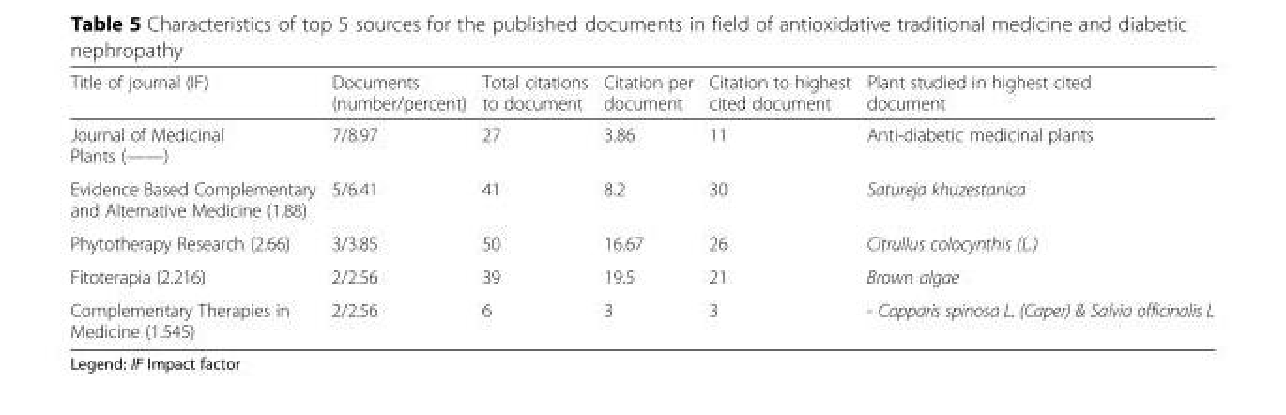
<table><thead><tr><td>Title of journal (IF)</td><td>Documents (number/percent)</td><td>Total citations to document</td><td>Citation per document</td><td>Citation to highest cited document</td><td>Plant studied in highest cited document</td></tr></thead><tbody><tr><td>Journal of Medicinal Plants (——)</td><td>7/8.97</td><td>27</td><td>3.86</td><td>11</td><td>Anti-diabetic medicinal plants</td></tr><tr><td>Evidence Based Complementary and Alternative Medicine (1.88)</td><td>5/6.41</td><td>41</td><td>8.2</td><td>30</td><td>Satureja khuzestanica</td></tr><tr><td>Phytotherapy Research (2.66)</td><td>3/3.85</td><td>50</td><td>16.67</td><td>26</td><td>Citrullus colocynthis (L.)</td></tr><tr><td>Fitoterapia (2.216)</td><td>2/2.56</td><td>39</td><td>19.5</td><td>21</td><td>Brown algae</td></tr><tr><td>Complementary Therapies in Medicine (1.545)</td><td>2/2.56</td><td>6</td><td>3</td><td>3</td><td>- Capparis spinosa L. (Caper) &amp; Salvia officinalis L</td></tr></tbody></table>